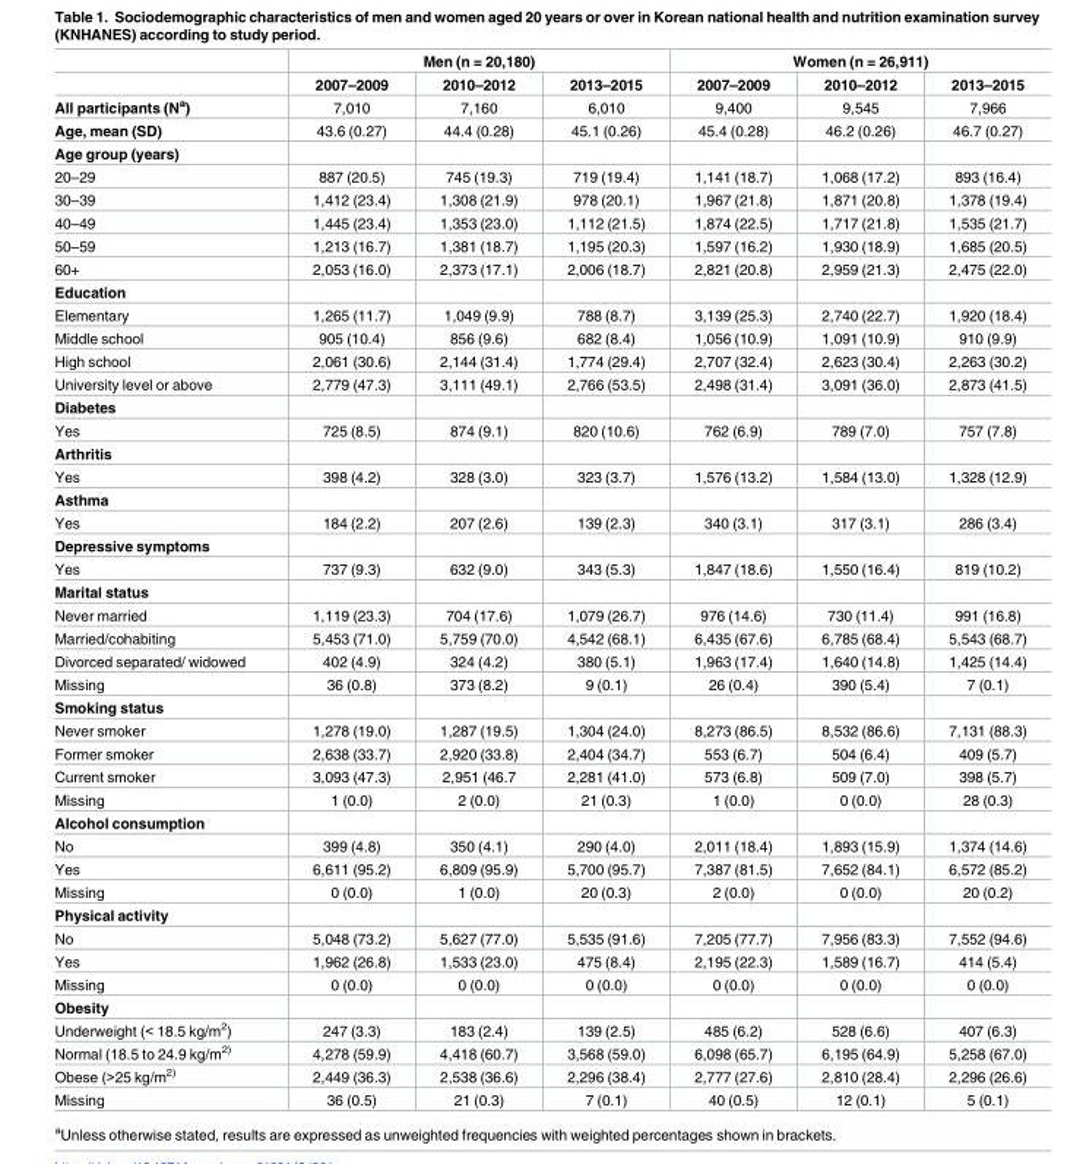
<table><thead><tr><td rowspan="2"></td><td colspan="3">Men (n = 20,180)</td><td colspan="3">Women (n = 26,911)</td></tr><tr><td>2007–2009</td><td>2010–2012</td><td>2013–2015</td><td>2007–2009</td><td>2010–2012</td><td>2013–2015</td></tr></thead><tbody><tr><td>All participants (N<sup>a</sup>)</td><td>7,010</td><td>7,160</td><td>6,010</td><td>9,400</td><td>9,545</td><td>7,966</td></tr><tr><td>Age, mean (SD)</td><td>43.6 (0.27)</td><td>44.4 (0.28)</td><td>45.1 (0.26)</td><td>45.4 (0.28)</td><td>46.2 (0.26)</td><td>46.7 (0.27)</td></tr><tr><td colspan="7">Age group (years)</td></tr><tr><td>20–29</td><td>887 (20.5)</td><td>745 (19.3)</td><td>719 (19.4)</td><td>1,141 (18.7)</td><td>1,068 (17.2)</td><td>893 (16.4)</td></tr><tr><td>30–39</td><td>1,412 (23.4)</td><td>1,308 (21.9)</td><td>978 (20.1)</td><td>1,967 (21.8)</td><td>1,871 (20.8)</td><td>1,378 (19.4)</td></tr><tr><td>40–49</td><td>1,445 (23.4)</td><td>1,353 (23.0)</td><td>1,112 (21.5)</td><td>1,874 (22.5)</td><td>1,717 (21.8)</td><td>1,535 (21.7)</td></tr><tr><td>50–59</td><td>1,213 (16.7)</td><td>1,381 (18.7)</td><td>1,195 (20.3)</td><td>1,597 (16.2)</td><td>1,930 (18.9)</td><td>1,685 (20.5)</td></tr><tr><td>60+</td><td>2,053 (16.0)</td><td>2,373 (17.1)</td><td>2,006 (18.7)</td><td>2,821 (20.8)</td><td>2,959 (21.3)</td><td>2,475 (22.0)</td></tr><tr><td colspan="7">Education</td></tr><tr><td>Elementary</td><td>1,265 (11.7)</td><td>1,049 (9.9)</td><td>788 (8.7)</td><td>3,139 (25.3)</td><td>2,740 (22.7)</td><td>1,920 (18.4)</td></tr><tr><td>Middle school</td><td>905 (10.4)</td><td>856 (9.6)</td><td>682 (8.4)</td><td>1,056 (10.9)</td><td>1,091 (10.9)</td><td>910 (9.9)</td></tr><tr><td>High school</td><td>2,061 (30.6)</td><td>2,144 (31.4)</td><td>1,774 (29.4)</td><td>2,707 (32.4)</td><td>2,623 (30.4)</td><td>2,263 (30.2)</td></tr><tr><td>University level or above</td><td>2,779 (47.3)</td><td>3,111 (49.1)</td><td>2,766 (53.5)</td><td>2,498 (31.4)</td><td>3,091 (36.0)</td><td>2,873 (41.5)</td></tr><tr><td colspan="7">Diabetes</td></tr><tr><td>Yes</td><td>725 (8.5)</td><td>874 (9.1)</td><td>820 (10.6)</td><td>762 (6.9)</td><td>789 (7.0)</td><td>757 (7.8)</td></tr><tr><td colspan="7">Arthritis</td></tr><tr><td>Yes</td><td>398 (4.2)</td><td>328 (3.0)</td><td>323 (3.7)</td><td>1,576 (13.2)</td><td>1,584 (13.0)</td><td>1,328 (12.9)</td></tr><tr><td colspan="7">Asthma</td></tr><tr><td>Yes</td><td>184 (2.2)</td><td>207 (2.6)</td><td>139 (2.3)</td><td>340 (3.1)</td><td>317 (3.1)</td><td>286 (3.4)</td></tr><tr><td colspan="7">Depressive symptoms</td></tr><tr><td>Yes</td><td>737 (9.3)</td><td>632 (9.0)</td><td>343 (5.3)</td><td>1,847 (18.6)</td><td>1,550 (16.4)</td><td>819 (10.2)</td></tr><tr><td colspan="7">Marital status</td></tr><tr><td>Never married</td><td>1,119 (23.3)</td><td>704 (17.6)</td><td>1,079 (26.7)</td><td>976 (14.6)</td><td>730 (11.4)</td><td>991 (16.8)</td></tr><tr><td>Married/cohabiting</td><td>5,453 (71.0)</td><td>5,759 (70.0)</td><td>4,542 (68.1)</td><td>6,435 (67.6)</td><td>6,785 (68.4)</td><td>5,543 (68.7)</td></tr><tr><td>Divorced separated/ widowed</td><td>402 (4.9)</td><td>324 (4.2)</td><td>380 (5.1)</td><td>1,963 (17.4)</td><td>1,640 (14.8)</td><td>1,425 (14.4)</td></tr><tr><td>Missing</td><td>36 (0.8)</td><td>373 (8.2)</td><td>9 (0.1)</td><td>26 (0.4)</td><td>390 (5.4)</td><td>7 (0.1)</td></tr><tr><td colspan="7">Smoking status</td></tr><tr><td>Never smoker</td><td>1,278 (19.0)</td><td>1,287 (19.5)</td><td>1,304 (24.0)</td><td>8,273 (86.5)</td><td>8,532 (86.6)</td><td>7,131 (88.3)</td></tr><tr><td>Former smoker</td><td>2,638 (33.7)</td><td>2,920 (33.8)</td><td>2,404 (34.7)</td><td>553 (6.7)</td><td>504 (6.4)</td><td>409 (5.7)</td></tr><tr><td>Current smoker</td><td>3,093 (47.3)</td><td>2,951 (46.7</td><td>2,281 (41.0)</td><td>573 (6.8)</td><td>509 (7.0)</td><td>398 (5.7)</td></tr><tr><td>Missing</td><td>1 (0.0)</td><td>2 (0.0)</td><td>21 (0.3)</td><td>1 (0.0)</td><td>0 (0.0)</td><td>28 (0.3)</td></tr><tr><td colspan="7">Alcohol consumption</td></tr><tr><td>No</td><td>399 (4.8)</td><td>350 (4.1)</td><td>290 (4.0)</td><td>2,011 (18.4)</td><td>1,893 (15.9)</td><td>1,374 (14.6)</td></tr><tr><td>Yes</td><td>6,611 (95.2)</td><td>6,809 (95.9)</td><td>5,700 (95.7)</td><td>7,387 (81.5)</td><td>7,652 (84.1)</td><td>6,572 (85.2)</td></tr><tr><td>Missing</td><td>0 (0.0)</td><td>1 (0.0)</td><td>20 (0.3)</td><td>2 (0.0)</td><td>0 (0.0)</td><td>20 (0.2)</td></tr><tr><td colspan="7">Physical activity</td></tr><tr><td>No</td><td>5,048 (73.2)</td><td>5,627 (77.0)</td><td>5,535 (91.6)</td><td>7,205 (77.7)</td><td>7,956 (83.3)</td><td>7,552 (94.6)</td></tr><tr><td>Yes</td><td>1,962 (26.8)</td><td>1,533 (23.0)</td><td>475 (8.4)</td><td>2,195 (22.3)</td><td>1,589 (16.7)</td><td>414 (5.4)</td></tr><tr><td>Missing</td><td>0 (0.0)</td><td>0 (0.0)</td><td>0 (0.0)</td><td>0 (0.0)</td><td>0 (0.0)</td><td>0 (0.0)</td></tr><tr><td colspan="7">Obesity</td></tr><tr><td>Underweight (&lt; 18.5 kg/m<sup>2</sup>)</td><td>247 (3.3)</td><td>183 (2.4)</td><td>139 (2.5)</td><td>485 (6.2)</td><td>528 (6.6)</td><td>407 (6.3)</td></tr><tr><td>Normal (18.5 to 24.9 kg/m<sup>2)</sup></td><td>4,278 (59.9)</td><td>4,418 (60.7)</td><td>3,568 (59.0)</td><td>6,098 (65.7)</td><td>6,195 (64.9)</td><td>5,258 (67.0)</td></tr><tr><td>Obese (&gt;25 kg/m<sup>2)</sup></td><td>2,449 (36.3)</td><td>2,538 (36.6)</td><td>2,296 (38.4)</td><td>2,777 (27.6)</td><td>2,810 (28.4)</td><td>2,296 (26.6)</td></tr><tr><td>Missing</td><td>36 (0.5)</td><td>21 (0.3)</td><td>7 (0.1)</td><td>40 (0.5)</td><td>12 (0.1)</td><td>5 (0.1)</td></tr></tbody></table>